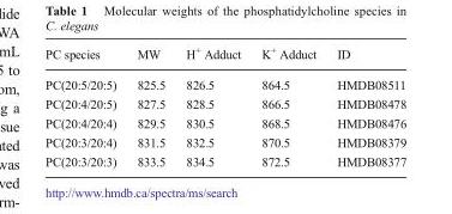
<table><thead><tr><td>PC species</td><td>MW</td><td>H<sup>+</sup> Adduct</td><td>K<sup>+</sup> Adduct</td><td>ID</td></tr></thead><tbody><tr><td>PC(20:5/20:5)</td><td>825.5</td><td>826.5</td><td>864.5</td><td>HMDB08511</td></tr><tr><td>PC(20:4/20:5)</td><td>827.5</td><td>828.5</td><td>866.5</td><td>HMDB08478</td></tr><tr><td>PC(20:4/20:4)</td><td>829.5</td><td>830.5</td><td>868.5</td><td>HMDB08476</td></tr><tr><td>PC(20:3/20:4)</td><td>831.5</td><td>832.5</td><td>870.5</td><td>HMDB08379</td></tr><tr><td>PC(20:3/20:3)</td><td>833.5</td><td>834.5</td><td>872.5</td><td>HMDB08377</td></tr></tbody></table>